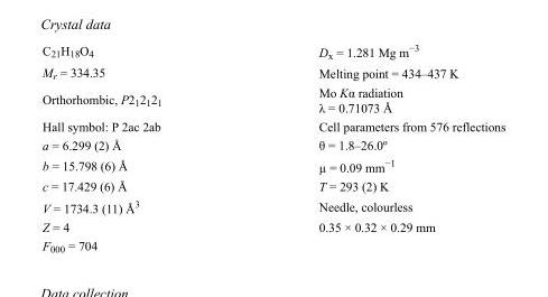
<table><tbody><tr><td>C<sub>21</sub>H<sub>18</sub>O<sub>4</sub></td><td>D<sub>x</sub> = 1.281 Mg m<sup>−3</sup></td></tr><tr><td>M<sub>r</sub> = 334.35</td><td>Melting point = 434–437 K</td></tr><tr><td>Orthorhombic, P2<sub>1</sub>2<sub>1</sub>2<sub>1</sub></td><td>Mo Kα radiation λ = 0.71073 Å</td></tr><tr><td>Hall symbol: P 2ac 2ab</td><td>Cell parameters from 576 reflections</td></tr><tr><td>a = 6.299 (2) Å</td><td>θ = 1.8–26.0º</td></tr><tr><td>b = 15.798 (6) Å</td><td>µ = 0.09 mm<sup>−1</sup></td></tr><tr><td>c = 17.429 (6) Å</td><td>T = 293 (2) K</td></tr><tr><td>V = 1734.3 (11) Å<sup>3</sup></td><td>Needle, colourless</td></tr><tr><td>Z = 4</td><td>0.35 × 0.32 × 0.29 mm</td></tr><tr><td>F000 = 704</td><td></td></tr></tbody></table>